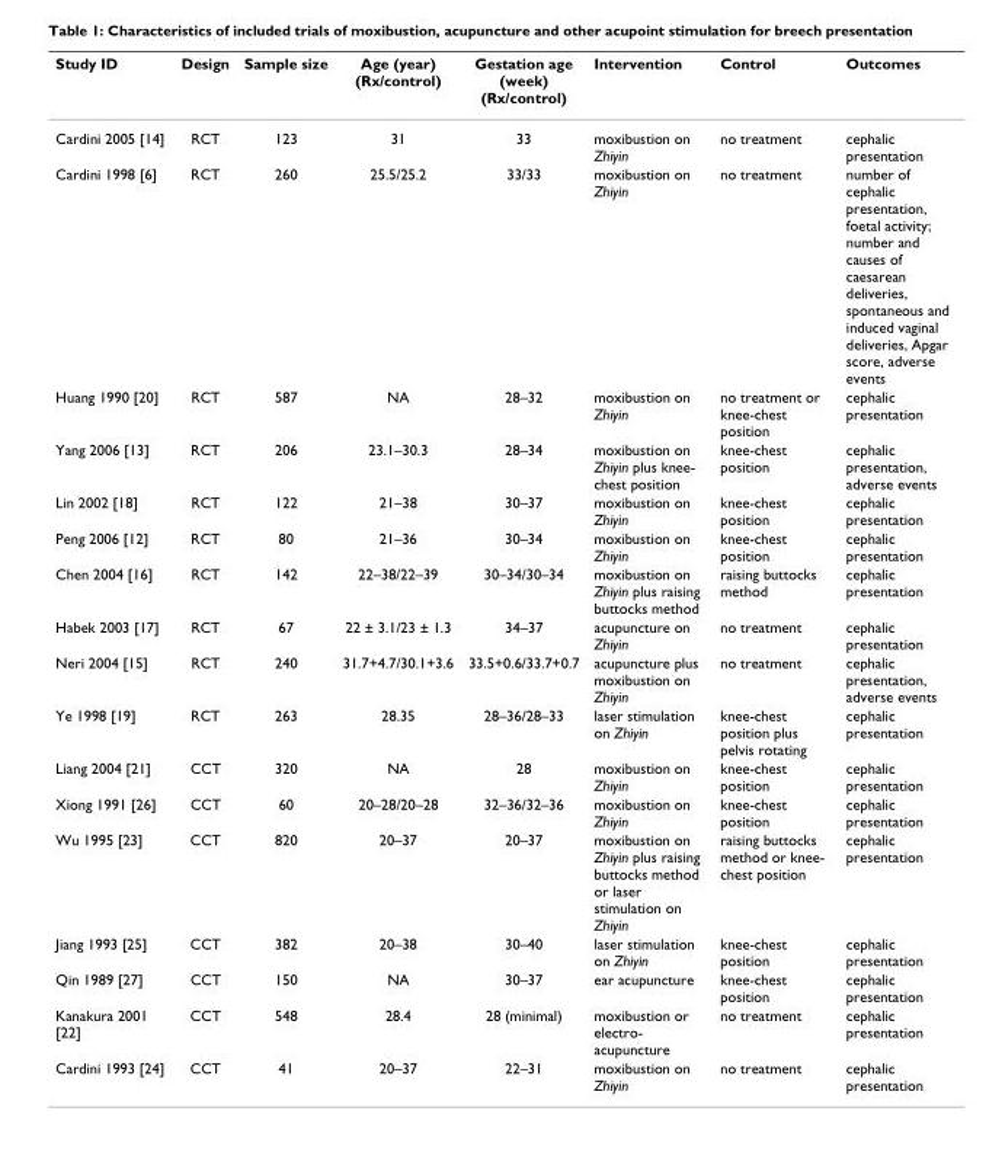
<table><thead><tr><td>Study ID</td><td>Design</td><td>Sample size</td><td>Age (year) (Rx/control)</td><td>Gestation age (week) (Rx/control)</td><td>Intervention</td><td>Control</td><td>Outcomes</td></tr></thead><tbody><tr><td>Cardini 2005 [14]</td><td>RCT</td><td>123</td><td>31</td><td>33</td><td>moxibustion on Zhiyin</td><td>no treatment</td><td>cephalic presentation</td></tr><tr><td>Cardini 1998 [6]</td><td>RCT</td><td>260</td><td>25.5/25.2</td><td>33/33</td><td>moxibustion on Zhiyin</td><td>no treatment</td><td>number of cephalic presentation, foetal activity; number and causes of caesarean deliveries, spontaneous and induced vaginal deliveries, Apgar score, adverse events</td></tr><tr><td>Huang 1990 [20]</td><td>RCT</td><td>587</td><td>NA</td><td>28–32</td><td>moxibustion on Zhiyin</td><td>no treatment or knee-chest position</td><td>cephalic presentation</td></tr><tr><td>Yang 2006 [13]</td><td>RCT</td><td>206</td><td>23.1–30.3</td><td>28–34</td><td>moxibustion on Zhiyin plus knee- chest position</td><td>knee-chest position</td><td>cephalic presentation, adverse events</td></tr><tr><td>Lin 2002 [18]</td><td>RCT</td><td>122</td><td>21–38</td><td>30–37</td><td>moxibustion on Zhiyin</td><td>knee-chest position</td><td>cephalic presentation</td></tr><tr><td>Peng 2006 [12]</td><td>RCT</td><td>80</td><td>21–36</td><td>30–34</td><td>moxibustion on Zhiyin</td><td>knee-chest position</td><td>cephalic presentation</td></tr><tr><td>Chen 2004 [16]</td><td>RCT</td><td>142</td><td>22–38/22–39</td><td>30–34/30–34</td><td>moxibustion on Zhiyin plus raising buttocks method</td><td>raising buttocks method</td><td>cephalic presentation</td></tr><tr><td>Habek 2003 [17]</td><td>RCT</td><td>67</td><td>22 ± 3.1/23 ± 1.3</td><td>34–37</td><td>acupuncture on Zhiyin</td><td>no treatment</td><td>cephalic presentation</td></tr><tr><td>Neri 2004 [15]</td><td>RCT</td><td>240</td><td>31.7+4.7/30.1+3.6</td><td>33.5+0.6/33.7+0.7</td><td>acupuncture plus moxibustion on Zhiyin</td><td>no treatment</td><td>cephalic presentation, adverse events</td></tr><tr><td>Ye 1998 [19]</td><td>RCT</td><td>263</td><td>28.35</td><td>28–36/28–33</td><td>laser stimulation on Zhiyin</td><td>knee-chest position plus pelvis rotating</td><td>cephalic presentation</td></tr><tr><td>Liang 2004 [21]</td><td>CCT</td><td>320</td><td>NA</td><td>28</td><td>moxibustion on Zhiyin</td><td>knee-chest position</td><td>cephalic presentation</td></tr><tr><td>Xiong 1991 [26]</td><td>CCT</td><td>60</td><td>20–28/20–28</td><td>32–36/32–36</td><td>moxibustion on Zhiyin</td><td>knee-chest position</td><td>cephalic presentation</td></tr><tr><td>Wu 1995 [23]</td><td>CCT</td><td>820</td><td>20–37</td><td>20–37</td><td>moxibustion on Zhiyin plus raising buttocks method or laser stimulation on Zhiyin</td><td>raising buttocks method or knee- chest position</td><td>cephalic presentation</td></tr><tr><td>Jiang 1993 [25]</td><td>CCT</td><td>382</td><td>20–38</td><td>30–40</td><td>laser stimulation on Zhiyin</td><td>knee-chest position</td><td>cephalic presentation</td></tr><tr><td>Qin 1989 [27]</td><td>CCT</td><td>150</td><td>NA</td><td>30–37</td><td>ear acupuncture</td><td>knee-chest position</td><td>cephalic presentation</td></tr><tr><td>Kanakura 2001 [22]</td><td>CCT</td><td>548</td><td>28.4</td><td>28 (minimal)</td><td>moxibustion or electro- acupuncture</td><td>no treatment</td><td>cephalic presentation</td></tr><tr><td>Cardini 1993 [24]</td><td>CCT</td><td>41</td><td>20–37</td><td>22–31</td><td>moxibustion on Zhiyin</td><td>no treatment</td><td>cephalic presentation</td></tr></tbody></table>